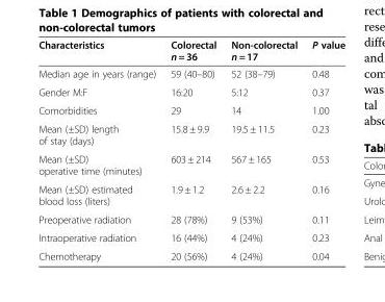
<table><thead><tr><td>Characteristics</td><td>Colorectal n = 36</td><td>Non-colorectal n = 17</td><td>P value</td></tr></thead><tbody><tr><td>Median age in years (range)</td><td>59 (40–80)</td><td>52 (38–79)</td><td>0.48</td></tr><tr><td>Gender M:F</td><td>16:20</td><td>5:12</td><td>0.37</td></tr><tr><td>Comorbidities</td><td>29</td><td>14</td><td>1.00</td></tr><tr><td>Mean (±SD) length of stay (days)</td><td>15.8 ± 9.9</td><td>19.5 ± 11.5</td><td>0.23</td></tr><tr><td>Mean (±SD) operative time (minutes)</td><td>603 ± 214</td><td>567 ± 165</td><td>0.53</td></tr><tr><td>Mean (±SD) estimated blood loss (liters)</td><td>1.9 ± 1.2</td><td>2.6 ± 2.2</td><td>0.16</td></tr><tr><td>Preoperative radiation</td><td>28 (78%)</td><td>9 (53%)</td><td>0.11</td></tr><tr><td>Intraoperative radiation</td><td>16 (44%)</td><td>4 (24%)</td><td>0.23</td></tr><tr><td>Chemotherapy</td><td>20 (56%)</td><td>4 (24%)</td><td>0.04</td></tr></tbody></table>